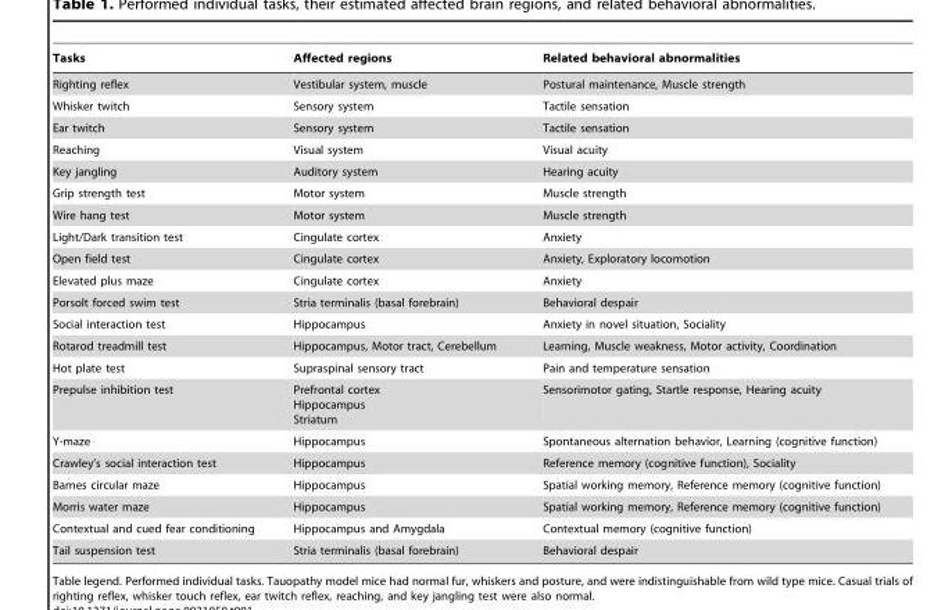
<table><thead><tr><td>Tasks</td><td>Affected regions</td><td>Related behavioral abnormalities</td></tr></thead><tbody><tr><td>Righting reflex</td><td>Vestibular system, muscle</td><td>Postural maintenance, Muscle strength</td></tr><tr><td>Whisker twitch</td><td>Sensory system</td><td>Tactile sensation</td></tr><tr><td>Ear twitch</td><td>Sensory system</td><td>Tactile sensation</td></tr><tr><td>Reaching</td><td>Visual system</td><td>Visual acuity</td></tr><tr><td>Key jangling</td><td>Auditory system</td><td>Hearing acuity</td></tr><tr><td>Grip strength test</td><td>Motor system</td><td>Muscle strength</td></tr><tr><td>Wire hang test</td><td>Motor system</td><td>Muscle strength</td></tr><tr><td>Light/Dark transition test</td><td>Cingulate cortex</td><td>Anxiety</td></tr><tr><td>Open field test</td><td>Cingulate cortex</td><td>Anxiety, Exploratory locomotion</td></tr><tr><td>Elevated plus maze</td><td>Cingulate cortex</td><td>Anxiety</td></tr><tr><td>Porsolt forced swim test</td><td>Stria terminalis (basal forebrain)</td><td>Behavioral despair</td></tr><tr><td>Social interaction test</td><td>Hippocampus</td><td>Anxiety in novel situation, Sociality</td></tr><tr><td>Rotarod treadmill test</td><td>Hippocampus, Motor tract, Cerebellum</td><td>Learning, Muscle weakness, Motor activity, Coordination</td></tr><tr><td>Hot plate test</td><td>Supraspinal sensory tract</td><td>Pain and temperature sensation</td></tr><tr><td>Prepulse inhibition test</td><td>Prefrontal cortex Hippocampus Striatum</td><td>Sensorimotor gating, Startle response, Hearing acuity</td></tr><tr><td>Y-maze</td><td>Hippocampus</td><td>Spontaneous alternation behavior, Learning (cognitive function)</td></tr><tr><td>Crawley’s social interaction test</td><td>Hippocampus</td><td>Reference memory (cognitive function), Sociality</td></tr><tr><td>Barnes circular maze</td><td>Hippocampus</td><td>Spatial working memory, Reference memory (cognitive function)</td></tr><tr><td>Morris water maze</td><td>Hippocampus</td><td>Spatial working memory, Reference memory (cognitive function)</td></tr><tr><td>Contextual and cued fear conditioning</td><td>Hippocampus and Amygdala</td><td>Contextual memory (cognitive function)</td></tr><tr><td>Tail suspension test</td><td>Stria terminalis (basal forebrain)</td><td>Behavioral despair</td></tr></tbody></table>